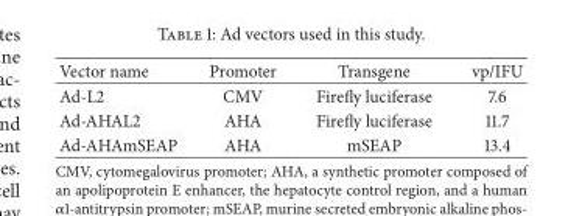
<table><thead><tr><td>Vector name</td><td>Promoter</td><td>Transgene</td><td>vp/IFU</td></tr></thead><tbody><tr><td>Ad-L2</td><td>CMV</td><td>Firefly luciferase</td><td>7.6</td></tr><tr><td>Ad-AHAL2</td><td>AHA</td><td>Firefly luciferase</td><td>11.7</td></tr><tr><td>Ad-AHAmSEAP</td><td>AHA</td><td>mSEAP</td><td>13.4</td></tr></tbody></table>